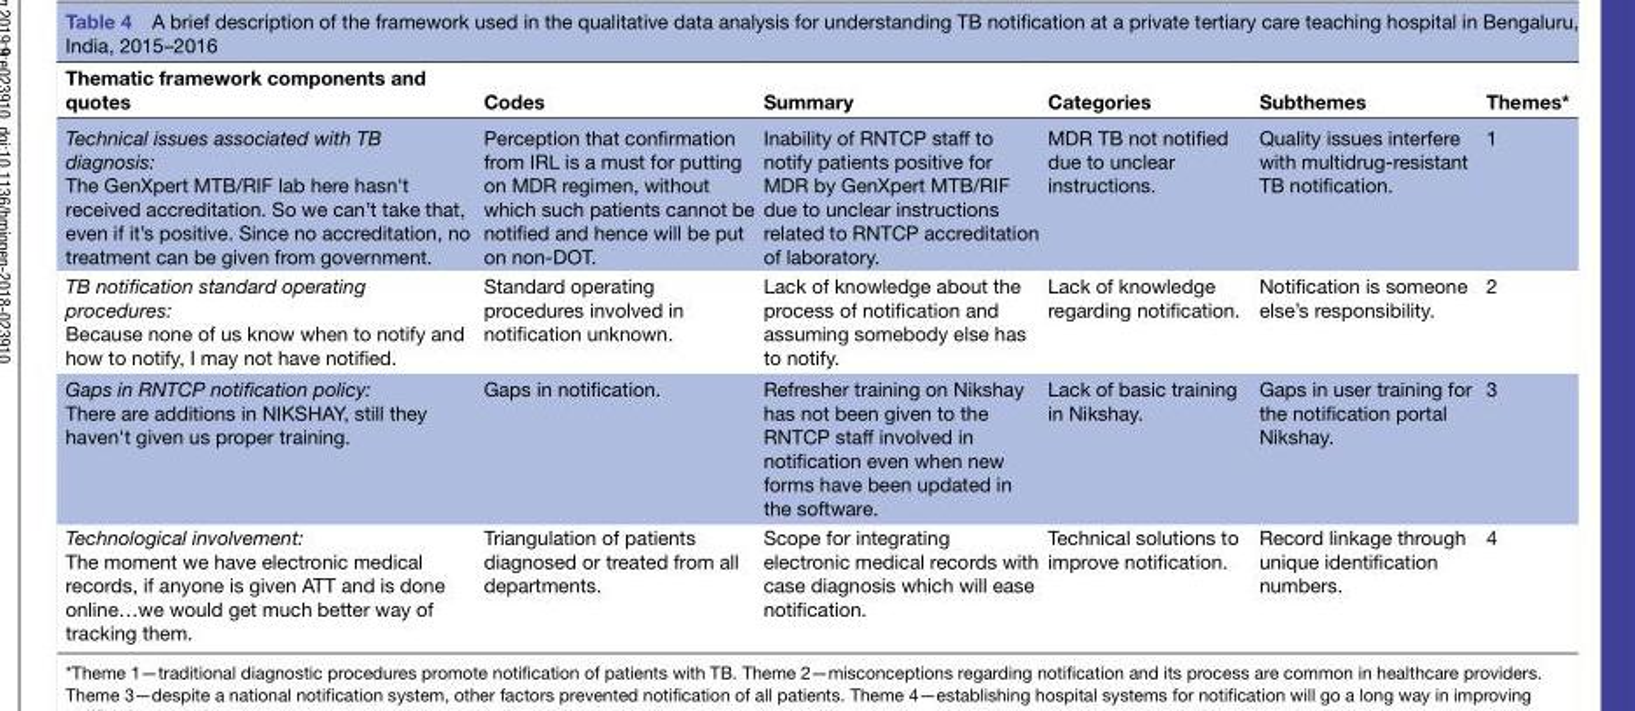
<table><thead><tr><td>Thematic framework components and quotes</td><td>Codes</td><td>Summary</td><td>Categories</td><td>Subthemes</td><td>Themes*</td></tr></thead><tbody><tr><td>Technical issues associated with TB diagnosis: The GenXpert MTB/RIF lab here hasn&#x27;t received accreditation. So we can’t take that, even if it’s positive. Since no accreditation, no treatment can be given from government.</td><td>Perception that confirmation from IRL is a must for putting on MDR regimen, without which such patients cannot be notified and hence will be put on non-DOT.</td><td>Inability of RNTCP staff to notify patients positive for MDR by GenXpert MTB/RIF due to unclear instructions related to RNTCP accreditation of laboratory.</td><td>MDR TB not notified due to unclear instructions.</td><td>Quality issues interfere with multidrug-resistant TB notification.</td><td>1</td></tr><tr><td>TB notification standard operating procedures: Because none of us know when to notify and how to notify, I may not have notified.</td><td>Standard operating procedures involved in notification unknown.</td><td>Lack of knowledge about the process of notification and assuming somebody else has to notify.</td><td>Lack of knowledge regarding notification.</td><td>Notification is someone else’s responsibility.</td><td>2</td></tr><tr><td>Gaps in RNTCP notification policy: There are additions in NIKSHAY, still they haven&#x27;t given us proper training.</td><td>Gaps in notification.</td><td>Refresher training on Nikshay has not been given to the RNTCP staff involved in notification even when new forms have been updated in the software.</td><td>Lack of basic training in Nikshay.</td><td>Gaps in user training for the notification portal Nikshay.</td><td>3</td></tr><tr><td>Technological involvement: The moment we have electronic medical records, if anyone is given ATT and is done online…we would get much better way of tracking them.</td><td>Triangulation of patients diagnosed or treated from all departments.</td><td>Scope for integrating electronic medical records with case diagnosis which will ease notification.</td><td>Technical solutions to improve notification.</td><td>Record linkage through unique identification numbers.</td><td>4</td></tr></tbody></table>